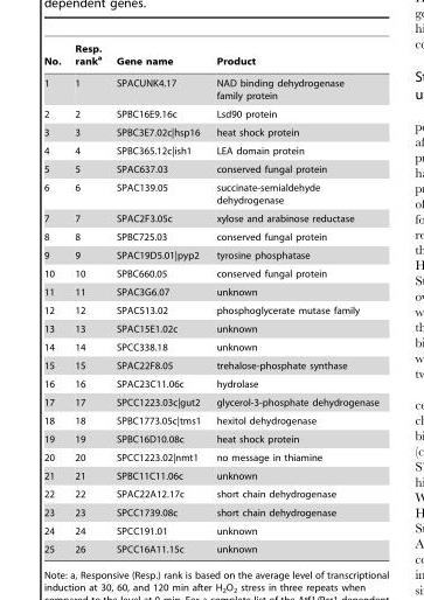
<table><thead><tr><td>No.</td><td>Resp. rank<sup>a</sup></td><td>Gene name</td><td>Product</td></tr></thead><tbody><tr><td>1</td><td>1</td><td>SPACUNK4.17</td><td>NAD binding dehydrogenase family protein</td></tr><tr><td>2</td><td>2</td><td>SPBC16E9.16c</td><td>Lsd90 protein</td></tr><tr><td>3</td><td>3</td><td>SPBC3E7.02c|hsp16</td><td>heat shock protein</td></tr><tr><td>4</td><td>4</td><td>SPBC365.12c|ish1</td><td>LEA domain protein</td></tr><tr><td>5</td><td>5</td><td>SPAC637.03</td><td>conserved fungal protein</td></tr><tr><td>6</td><td>6</td><td>SPAC139.05</td><td>succinate-semialdehyde dehydrogenase</td></tr><tr><td>7</td><td>7</td><td>SPAC2F3.05c</td><td>xylose and arabinose reductase</td></tr><tr><td>8</td><td>8</td><td>SPBC725.03</td><td>conserved fungal protein</td></tr><tr><td>9</td><td>9</td><td>SPAC19D5.01|pyp2</td><td>tyrosine phosphatase</td></tr><tr><td>10</td><td>10</td><td>SPBC660.05</td><td>conserved fungal protein</td></tr><tr><td>11</td><td>11</td><td>SPAC3G6.07</td><td>unknown</td></tr><tr><td>12</td><td>12</td><td>SPAC513.02</td><td>phosphoglycerate mutase family</td></tr><tr><td>13</td><td>13</td><td>SPAC15E1.02c</td><td>unknown</td></tr><tr><td>14</td><td>14</td><td>SPCC338.18</td><td>unknown</td></tr><tr><td>15</td><td>15</td><td>SPAC22F8.05</td><td>trehalose-phosphate synthase</td></tr><tr><td>16</td><td>16</td><td>SPAC23C11.06c</td><td>hydrolase</td></tr><tr><td>17</td><td>17</td><td>SPCC1223.03c|gut2</td><td>glycerol-3-phosphate dehydrogenase</td></tr><tr><td>18</td><td>18</td><td>SPBC1773.05c|tms1</td><td>hexitol dehydrogenase</td></tr><tr><td>19</td><td>19</td><td>SPBC16D10.08c</td><td>heat shock protein</td></tr><tr><td>20</td><td>20</td><td>SPCC1223.02|nmt1</td><td>no message in thiamine</td></tr><tr><td>21</td><td>21</td><td>SPBC11C11.06c</td><td>unknown</td></tr><tr><td>22</td><td>22</td><td>SPAC22A12.17c</td><td>short chain dehydrogenase</td></tr><tr><td>23</td><td>23</td><td>SPCC1739.08c</td><td>short chain dehydrogenase</td></tr><tr><td>24</td><td>24</td><td>SPCC191.01</td><td>unknown</td></tr><tr><td>25</td><td>26</td><td>SPCC16A11.15c</td><td>unknown</td></tr></tbody></table>